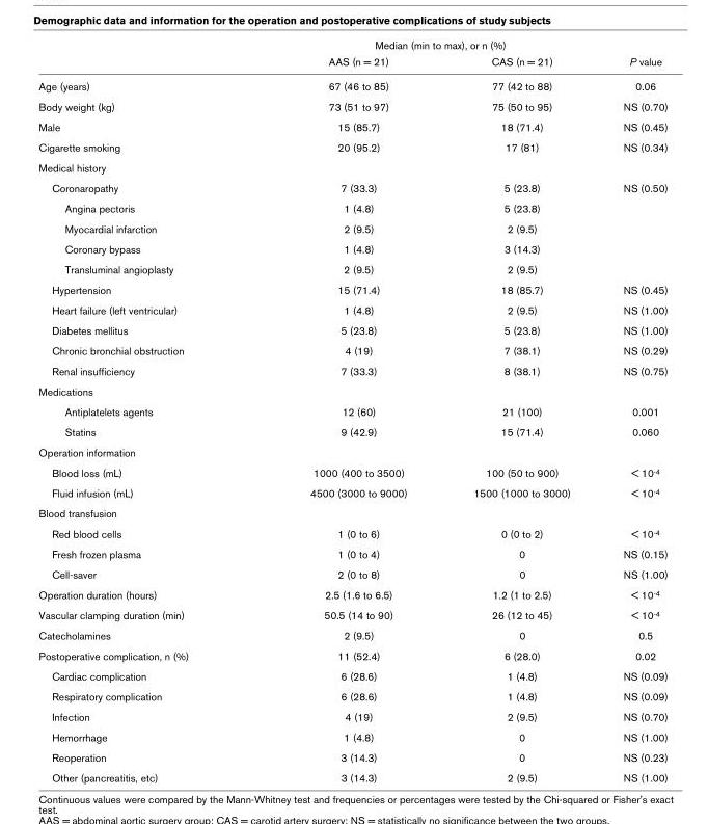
<table><thead><tr><td rowspan="2"></td><td colspan="2">Median (min to max), or n (%)</td><td rowspan="2">P value</td></tr><tr><td>AAS (n = 21)</td><td>CAS (n = 21)</td></tr></thead><tbody><tr><td>Age (years)</td><td>67 (46 to 85)</td><td>77 (42 to 88)</td><td>0.06</td></tr><tr><td>Body weight (kg)</td><td>73 (51 to 97)</td><td>75 (50 to 95)</td><td>NS (0.70)</td></tr><tr><td>Male</td><td>15 (85.7)</td><td>18 (71.4)</td><td>NS (0.45)</td></tr><tr><td>Cigarette smoking</td><td>20 (95.2)</td><td>17 (81)</td><td>NS (0.34)</td></tr><tr><td colspan="4">Medical history</td></tr><tr><td>Coronaropathy</td><td>7 (33.3)</td><td>5 (23.8)</td><td>NS (0.50)</td></tr><tr><td>Angina pectoris</td><td>1 (4.8)</td><td>5 (23.8)</td><td></td></tr><tr><td>Myocardial infarction</td><td>2 (9.5)</td><td>2 (9.5)</td><td></td></tr><tr><td>Coronary bypass</td><td>1 (4.8)</td><td>3 (14.3)</td><td></td></tr><tr><td>Transluminal angioplasty</td><td>2 (9.5)</td><td>2 (9.5)</td><td></td></tr><tr><td>Hypertension</td><td>15 (71.4)</td><td>18 (85.7)</td><td>NS (0.45)</td></tr><tr><td>Heart failure (left ventricular)</td><td>1 (4.8)</td><td>2 (9.5)</td><td>NS (1.00)</td></tr><tr><td>Diabetes mellitus</td><td>5 (23.8)</td><td>5 (23.8)</td><td>NS (1.00)</td></tr><tr><td>Chronic bronchial obstruction</td><td>4 (19)</td><td>7 (38.1)</td><td>NS (0.29)</td></tr><tr><td>Renal insufficiency</td><td>7 (33.3)</td><td>8 (38.1)</td><td>NS (0.75)</td></tr><tr><td colspan="4">Medications</td></tr><tr><td>Antiplatelets agents</td><td>12 (60)</td><td>21 (100)</td><td>0.001</td></tr><tr><td>Statins</td><td>9 (42.9)</td><td>15 (71.4)</td><td>0.060</td></tr><tr><td colspan="4">Operation information</td></tr><tr><td>Blood loss (mL)</td><td>1000 (400 to 3500)</td><td>100 (50 to 900)</td><td>&lt; 10<sup>-4</sup></td></tr><tr><td>Fluid infusion (mL)</td><td>4500 (3000 to 9000)</td><td>1500 (1000 to 3000)</td><td>&lt; 10<sup>-4</sup></td></tr><tr><td colspan="4">Blood transfusion</td></tr><tr><td>Red blood cells</td><td>1 (0 to 6)</td><td>0 (0 to 2)</td><td>&lt; 10<sup>-4</sup></td></tr><tr><td>Fresh frozen plasma</td><td>1 (0 to 4)</td><td>0</td><td>NS (0.15)</td></tr><tr><td>Cell-saver</td><td>2 (0 to 8)</td><td>0</td><td>NS (1.00)</td></tr><tr><td>Operation duration (hours)</td><td>2.5 (1.6 to 6.5)</td><td>1.2 (1 to 2.5)</td><td>&lt; 10<sup>-4</sup></td></tr><tr><td>Vascular clamping duration (min)</td><td>50.5 (14 to 90)</td><td>26 (12 to 45)</td><td>&lt; 10<sup>-4</sup></td></tr><tr><td>Catecholamines</td><td>2 (9.5)</td><td>0</td><td>0.5</td></tr><tr><td>Postoperative complication, n (%)</td><td>11 (52.4)</td><td>6 (28.0)</td><td>0.02</td></tr><tr><td>Cardiac complication</td><td>6 (28.6)</td><td>1 (4.8)</td><td>NS (0.09)</td></tr><tr><td>Respiratory complication</td><td>6 (28.6)</td><td>1 (4.8)</td><td>NS (0.09)</td></tr><tr><td>Infection</td><td>4 (19)</td><td>2 (9.5)</td><td>NS (0.70)</td></tr><tr><td>Hemorrhage</td><td>1 (4.8)</td><td>0</td><td>NS (1.00)</td></tr><tr><td>Reoperation</td><td>3 (14.3)</td><td>0</td><td>NS (0.23)</td></tr><tr><td>Other (pancreatitis, etc)</td><td>3 (14.3)</td><td>2 (9.5)</td><td>NS (1.00)</td></tr></tbody></table>